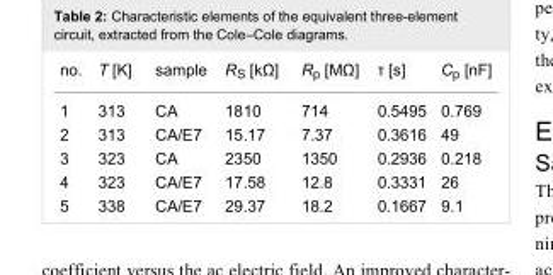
<table><tbody><tr><td>no.</td><td>T [K]</td><td>sample</td><td>R<sub>S</sub> [kΩ]</td><td>R<sub>p</sub> [MΩ]</td><td>τ [s]</td><td>C<sub>p</sub> [nF]</td></tr><tr><td>1</td><td>313</td><td>CA</td><td>1810</td><td>714</td><td>0.5495</td><td>0.769</td></tr><tr><td>2</td><td>313</td><td>CA/E7</td><td>15.17</td><td>7.37</td><td>0.3616</td><td>49</td></tr><tr><td>3</td><td>323</td><td>CA</td><td>2350</td><td>1350</td><td>0.2936</td><td>0.218</td></tr><tr><td>4</td><td>323</td><td>CA/E7</td><td>17.58</td><td>12.8</td><td>0.3331</td><td>26</td></tr><tr><td>5</td><td>338</td><td>CA/E7</td><td>29.37</td><td>18.2</td><td>0.1667</td><td>9.1</td></tr></tbody></table>